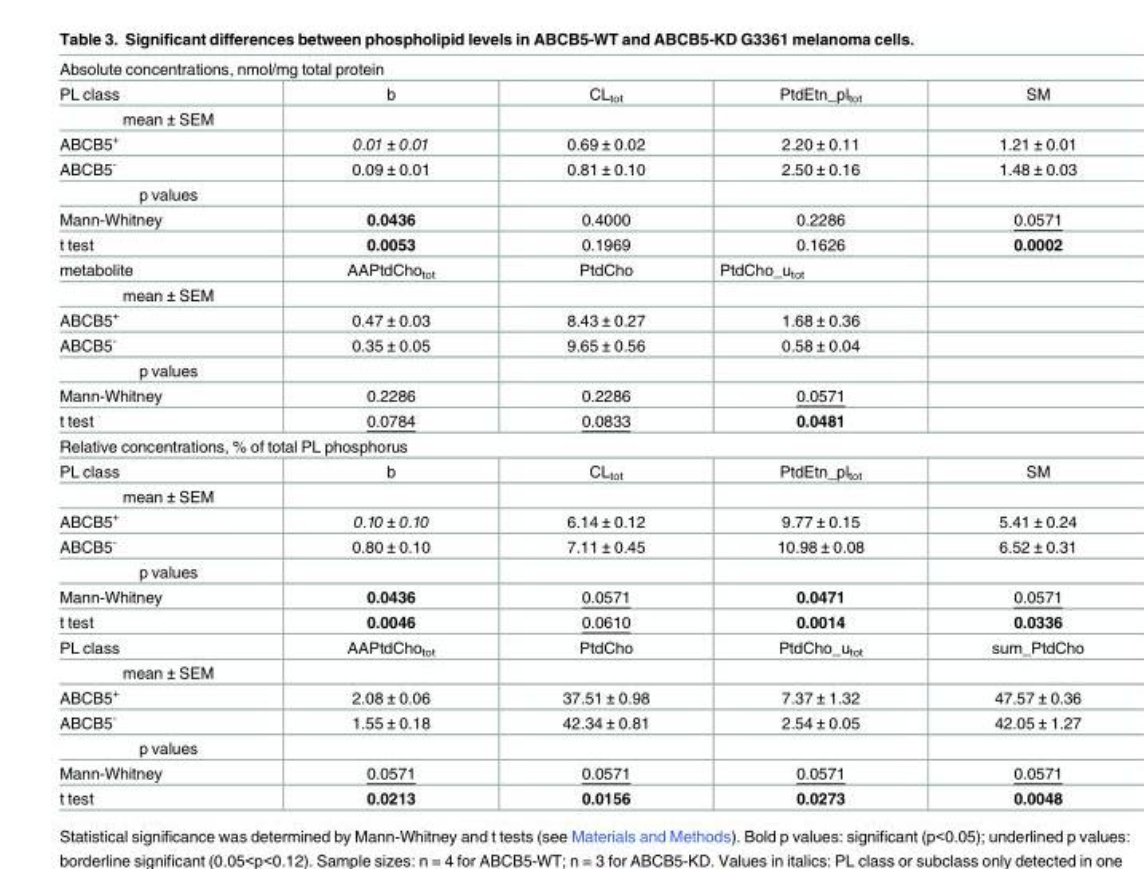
<table><tbody><tr><td colspan="5">Absolute concentrations, nmol/mg total protein</td></tr><tr><td>PL class</td><td>b</td><td>CL<sub>tot</sub></td><td>PtdEtn_pl<sub>tot</sub></td><td>SM</td></tr><tr><td colspan="5">mean ± SEM</td></tr><tr><td>ABCB5<sup>+</sup></td><td>0.01 ± 0.01</td><td>0.69 ± 0.02</td><td>2.20 ± 0.11</td><td>1.21 ± 0.01</td></tr><tr><td>ABCB5<sup>-</sup></td><td>0.09 ± 0.01</td><td>0.81 ± 0.10</td><td>2.50 ± 0.16</td><td>1.48 ± 0.03</td></tr><tr><td colspan="5">p values</td></tr><tr><td>Mann-Whitney</td><td>0.0436</td><td>0.4000</td><td>0.2286</td><td>0.0571</td></tr><tr><td>t test</td><td>0.0053</td><td>0.1969</td><td>0.1626</td><td>0.0002</td></tr><tr><td>metabolite</td><td>AAPtdCho<sub>tot</sub></td><td>PtdCho</td><td>PtdCho_u<sub>tot</sub></td><td></td></tr><tr><td colspan="5">mean ± SEM</td></tr><tr><td>ABCB5<sup>+</sup></td><td>0.47 ± 0.03</td><td>8.43 ± 0.27</td><td>1.68 ± 0.36</td><td></td></tr><tr><td>ABCB5<sup>-</sup></td><td>0.35 ± 0.05</td><td>9.65 ± 0.56</td><td>0.58 ± 0.04</td><td></td></tr><tr><td colspan="5">p values</td></tr><tr><td>Mann-Whitney</td><td>0.2286</td><td>0.2286</td><td>0.0571</td><td></td></tr><tr><td>t test</td><td>0.0784</td><td>0.0833</td><td>0.0481</td><td></td></tr><tr><td colspan="5">Relative concentrations, % of total PL phosphorus</td></tr><tr><td>PL class</td><td>b</td><td>CL<sub>tot</sub></td><td>PtdEtn_pl<sub>tot</sub></td><td>SM</td></tr><tr><td colspan="5">mean ± SEM</td></tr><tr><td>ABCB5<sup>+</sup></td><td>0.10 ± 0.10</td><td>6.14 ± 0.12</td><td>9.77 ± 0.15</td><td>5.41 ± 0.24</td></tr><tr><td>ABCB5<sup>-</sup></td><td>0.80 ± 0.10</td><td>7.11 ± 0.45</td><td>10.98 ± 0.08</td><td>6.52 ± 0.31</td></tr><tr><td colspan="5">p values</td></tr><tr><td>Mann-Whitney</td><td>0.0436</td><td>0.0571</td><td>0.0471</td><td>0.0571</td></tr><tr><td>t test</td><td>0.0046</td><td>0.0610</td><td>0.0014</td><td>0.0336</td></tr><tr><td>PL class</td><td>AAPtdCho<sub>tot</sub></td><td>PtdCho</td><td>PtdCho_u<sub>tot</sub></td><td>sum_PtdCho</td></tr><tr><td colspan="5">mean ± SEM</td></tr><tr><td>ABCB5<sup>+</sup></td><td>2.08 ± 0.06</td><td>37.51 ± 0.98</td><td>7.37 ± 1.32</td><td>47.57 ± 0.36</td></tr><tr><td>ABCB5<sup>-</sup></td><td>1.55 ± 0.18</td><td>42.34 ± 0.81</td><td>2.54 ± 0.05</td><td>42.05 ± 1.27</td></tr><tr><td colspan="5">p values</td></tr><tr><td>Mann-Whitney</td><td>0.0571</td><td>0.0571</td><td>0.0571</td><td>0.0571</td></tr><tr><td>t test</td><td>0.0213</td><td>0.0156</td><td>0.0273</td><td>0.0048</td></tr></tbody></table>